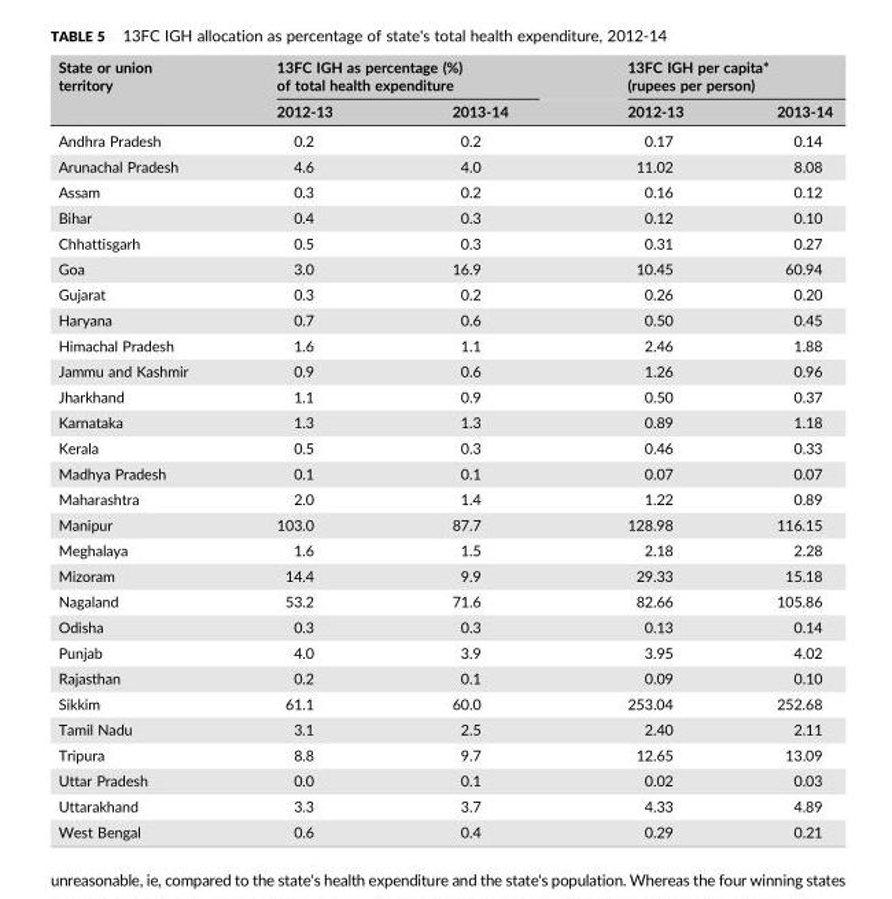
<table><thead><tr><td rowspan="2">State or union territory</td><td colspan="2">13FC IGH as percentage (%) of total health expenditure</td><td colspan="2">13FC IGH per capita* (rupees per person)</td></tr><tr><td>2012‐13</td><td>2013‐14</td><td>2012‐13</td><td>2013‐14</td></tr></thead><tbody><tr><td>Andhra Pradesh</td><td>0.2</td><td>0.2</td><td>0.17</td><td>0.14</td></tr><tr><td>Arunachal Pradesh</td><td>4.6</td><td>4.0</td><td>11.02</td><td>8.08</td></tr><tr><td>Assam</td><td>0.3</td><td>0.2</td><td>0.16</td><td>0.12</td></tr><tr><td>Bihar</td><td>0.4</td><td>0.3</td><td>0.12</td><td>0.10</td></tr><tr><td>Chhattisgarh</td><td>0.5</td><td>0.3</td><td>0.31</td><td>0.27</td></tr><tr><td>Goa</td><td>3.0</td><td>16.9</td><td>10.45</td><td>60.94</td></tr><tr><td>Gujarat</td><td>0.3</td><td>0.2</td><td>0.26</td><td>0.20</td></tr><tr><td>Haryana</td><td>0.7</td><td>0.6</td><td>0.50</td><td>0.45</td></tr><tr><td>Himachal Pradesh</td><td>1.6</td><td>1.1</td><td>2.46</td><td>1.88</td></tr><tr><td>Jammu and Kashmir</td><td>0.9</td><td>0.6</td><td>1.26</td><td>0.96</td></tr><tr><td>Jharkhand</td><td>1.1</td><td>0.9</td><td>0.50</td><td>0.37</td></tr><tr><td>Karnataka</td><td>1.3</td><td>1.3</td><td>0.89</td><td>1.18</td></tr><tr><td>Kerala</td><td>0.5</td><td>0.3</td><td>0.46</td><td>0.33</td></tr><tr><td>Madhya Pradesh</td><td>0.1</td><td>0.1</td><td>0.07</td><td>0.07</td></tr><tr><td>Maharashtra</td><td>2.0</td><td>1.4</td><td>1.22</td><td>0.89</td></tr><tr><td>Manipur</td><td>103.0</td><td>87.7</td><td>128.98</td><td>116.15</td></tr><tr><td>Meghalaya</td><td>1.6</td><td>1.5</td><td>2.18</td><td>2.28</td></tr><tr><td>Mizoram</td><td>14.4</td><td>9.9</td><td>29.33</td><td>15.18</td></tr><tr><td>Nagaland</td><td>53.2</td><td>71.6</td><td>82.66</td><td>105.86</td></tr><tr><td>Odisha</td><td>0.3</td><td>0.3</td><td>0.13</td><td>0.14</td></tr><tr><td>Punjab</td><td>4.0</td><td>3.9</td><td>3.95</td><td>4.02</td></tr><tr><td>Rajasthan</td><td>0.2</td><td>0.1</td><td>0.09</td><td>0.10</td></tr><tr><td>Sikkim</td><td>61.1</td><td>60.0</td><td>253.04</td><td>252.68</td></tr><tr><td>Tamil Nadu</td><td>3.1</td><td>2.5</td><td>2.40</td><td>2.11</td></tr><tr><td>Tripura</td><td>8.8</td><td>9.7</td><td>12.65</td><td>13.09</td></tr><tr><td>Uttar Pradesh</td><td>0.0</td><td>0.1</td><td>0.02</td><td>0.03</td></tr><tr><td>Uttarakhand</td><td>3.3</td><td>3.7</td><td>4.33</td><td>4.89</td></tr><tr><td>West Bengal</td><td>0.6</td><td>0.4</td><td>0.29</td><td>0.21</td></tr></tbody></table>